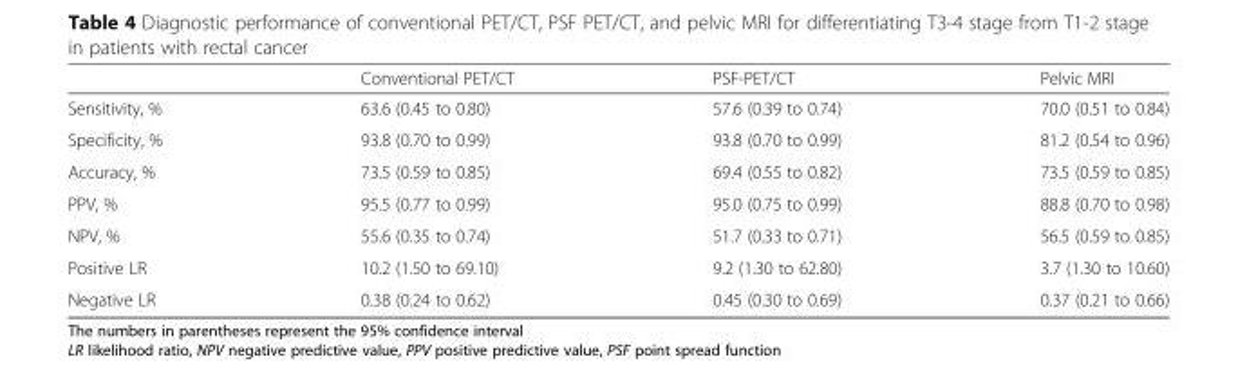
<table><thead><tr><td></td><td>Conventional PET/CT</td><td>PSF-PET/CT</td><td>Pelvic MRI</td></tr></thead><tbody><tr><td>Sensitivity, %</td><td>63.6 (0.45 to 0.80)</td><td>57.6 (0.39 to 0.74)</td><td>70.0 (0.51 to 0.84)</td></tr><tr><td>Specificity, %</td><td>93.8 (0.70 to 0.99)</td><td>93.8 (0.70 to 0.99)</td><td>81.2 (0.54 to 0.96)</td></tr><tr><td>Accuracy, %</td><td>73.5 (0.59 to 0.85)</td><td>69.4 (0.55 to 0.82)</td><td>73.5 (0.59 to 0.85)</td></tr><tr><td>PPV, %</td><td>95.5 (0.77 to 0.99)</td><td>95.0 (0.75 to 0.99)</td><td>88.8 (0.70 to 0.98)</td></tr><tr><td>NPV, %</td><td>55.6 (0.35 to 0.74)</td><td>51.7 (0.33 to 0.71)</td><td>56.5 (0.59 to 0.85)</td></tr><tr><td>Positive LR</td><td>10.2 (1.50 to 69.10)</td><td>9.2 (1.30 to 62.80)</td><td>3.7 (1.30 to 10.60)</td></tr><tr><td>Negative LR</td><td>0.38 (0.24 to 0.62)</td><td>0.45 (0.30 to 0.69)</td><td>0.37 (0.21 to 0.66)</td></tr></tbody></table>